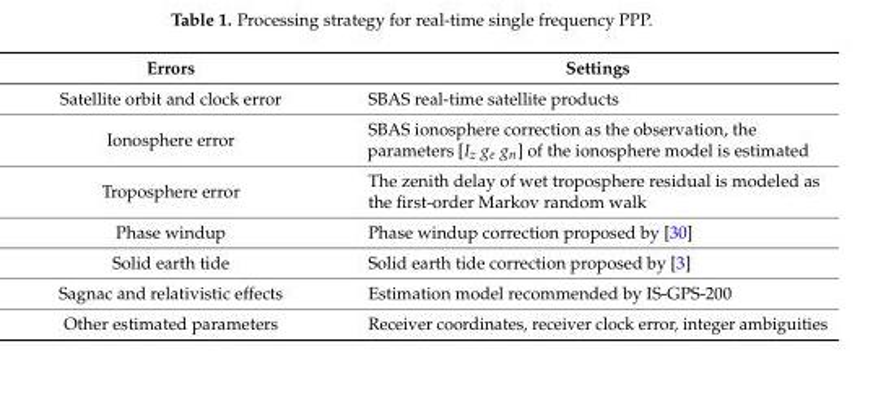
<table><thead><tr><td>Errors</td><td>Settings</td></tr></thead><tbody><tr><td>Satellite orbit and clock error</td><td>SBAS real-time satellite products</td></tr><tr><td>Ionosphere error</td><td>SBAS ionosphere correction as the observation, the parameters [I<sub>z</sub> g<sub>e</sub> g<sub>n</sub>] of the ionosphere model is estimated</td></tr><tr><td>Troposphere error</td><td>The zenith delay of wet troposphere residual is modeled as the first-order Markov random walk</td></tr><tr><td>Phase windup</td><td>Phase windup correction proposed by [30]</td></tr><tr><td>Solid earth tide</td><td>Solid earth tide correction proposed by [3]</td></tr><tr><td>Sagnac and relativistic effects</td><td>Estimation model recommended by IS-GPS-200</td></tr><tr><td>Other estimated parameters</td><td>Receiver coordinates, receiver clock error, integer ambiguities</td></tr></tbody></table>